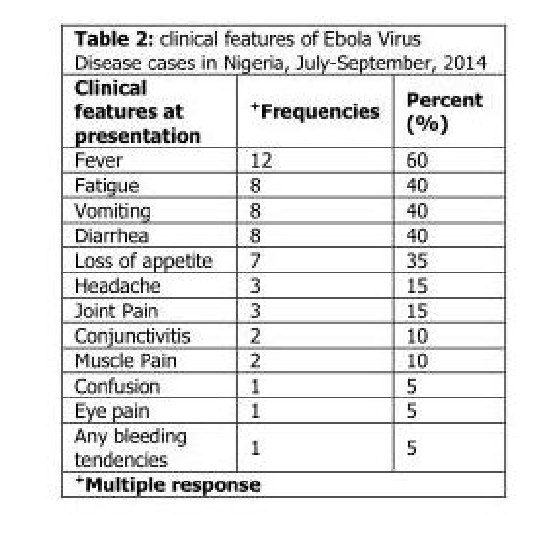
<table><thead><tr><td>Clinical features at presentation</td><td>+Frequencies</td><td>Percent (%)</td></tr></thead><tbody><tr><td>Fever</td><td>12</td><td>60</td></tr><tr><td>Fatigue</td><td>8</td><td>40</td></tr><tr><td>Vomiting</td><td>8</td><td>40</td></tr><tr><td>Diarrhea</td><td>8</td><td>40</td></tr><tr><td>Loss of appetite</td><td>7</td><td>35</td></tr><tr><td>Headache</td><td>3</td><td>15</td></tr><tr><td>Joint Pain</td><td>3</td><td>15</td></tr><tr><td>Conjunctivitis</td><td>2</td><td>10</td></tr><tr><td>Muscle Pain</td><td>2</td><td>10</td></tr><tr><td>Confusion</td><td>1</td><td>5</td></tr><tr><td>Eye pain</td><td>1</td><td>5</td></tr><tr><td>Any bleeding tendencies</td><td>1</td><td>5</td></tr></tbody></table>